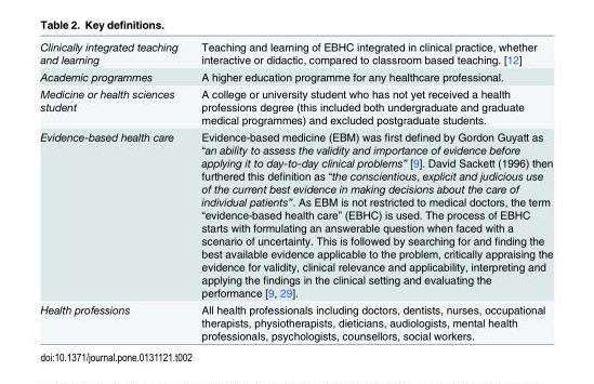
<table><tbody><tr><td>Clinically integrated teaching and learning</td><td>Teaching and learning of EBHC integrated in clinical practice, whether interactive or didactic, compared to classroom based teaching. [12]</td></tr><tr><td>Academic programmes</td><td>A higher education programme for any healthcare professional.</td></tr><tr><td>Medicine or health sciences student</td><td>A college or university student who has not yet received a health professions degree (this included both undergraduate and graduate medical programmes) and excluded postgraduate students.</td></tr><tr><td>Evidence-based health care</td><td>Evidence-based medicine (EBM) was first defined by Gordon Guyatt as “an ability to assess the validity and importance of evidence before applying it to day-to-day clinical problems” [9]. David Sackett (1996) then furthered this definition as “the conscientious, explicit and judicious use of the current best evidence in making decisions about the care of individual patients”. As EBM is not restricted to medical doctors, the term “evidence-based health care” (EBHC) is used. The process of EBHC starts with formulating an answerable question when faced with a scenario of uncertainty. This is followed by searching for and finding the best available evidence applicable to the problem, critically appraising the evidence for validity, clinical relevance and applicability, interpreting and applying the findings in the clinical setting and evaluating the performance [9, 29].</td></tr><tr><td>Health professions</td><td>All health professionals including doctors, dentists, nurses, occupational therapists, physiotherapists, dieticians, audiologists, mental health professionals, psychologists, counsellors, social workers.</td></tr></tbody></table>